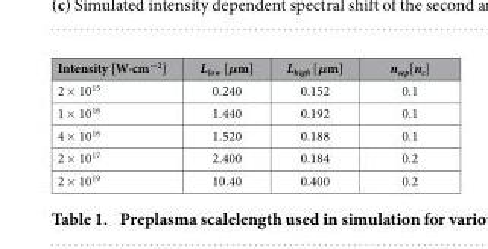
<table><thead><tr><td>Intensity [W·cm<sup>−2</sup>]</td><td>L<sub>low</sub> [μm]</td><td>L<sub>high</sub> [μm]</td><td>n<sub>sep</sub>[n<sub>c</sub>]</td></tr></thead><tbody><tr><td>2 × 10<sup>15</sup></td><td>0.240</td><td>0.152</td><td>0.1</td></tr><tr><td>1 × 10<sup>16</sup></td><td>1.440</td><td>0.192</td><td>0.1</td></tr><tr><td>4 × 10<sup>16</sup></td><td>1.520</td><td>0.188</td><td>0.1</td></tr><tr><td>2 × 10<sup>17</sup></td><td>2.400</td><td>0.184</td><td>0.2</td></tr><tr><td>2 × 10<sup>19</sup></td><td>10.40</td><td>0.400</td><td>0.2</td></tr></tbody></table>